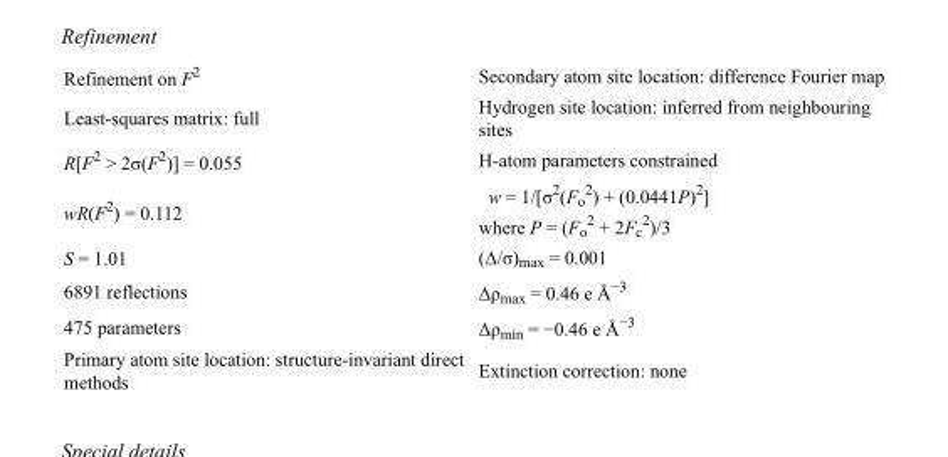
<table><tbody><tr><td>Refinement on F<sup>2</sup></td><td>Secondary atom site location: difference Fourier map</td></tr><tr><td>Least-squares matrix: full</td><td>Hydrogen site location: inferred from neighbouring sites</td></tr><tr><td>R[F<sup>2</sup> &gt; 2σ(F<sup>2</sup>)] = 0.055</td><td>H-atom parameters constrained</td></tr><tr><td>wR(F<sup>2</sup>) = 0.112</td><td>w = 1/[σ<sup>2</sup>(F<sub>o</sub> <sup>2</sup>) + (0.0441P)<sup>2</sup>] where P = (F<sub>o</sub> <sup>2</sup> + 2F<sub>c</sub> <sup>2</sup>)/3</td></tr><tr><td>S = 1.01</td><td>(Δ/σ)<sub>max</sub> = 0.001</td></tr><tr><td>6891 reflections</td><td>Δρ<sub>max</sub> = 0.46 e Å<sup>−3</sup></td></tr><tr><td>475 parameters</td><td>Δρ<sub>min</sub> = −0.46 e Å<sup>−3</sup></td></tr><tr><td>Primary atom site location: structure-invariant direct methods</td><td>Extinction correction: none</td></tr></tbody></table>